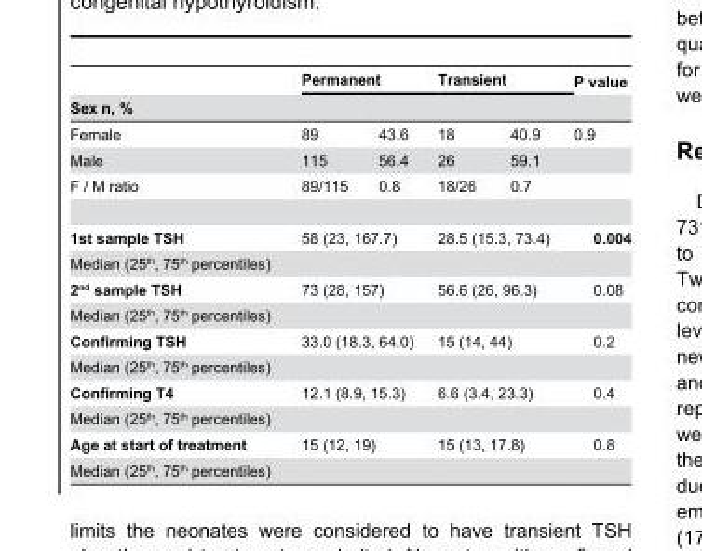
<table><thead><tr><td rowspan="2">Sex n, %</td><td colspan="2">Permanent</td><td colspan="2">Transient</td><td rowspan="2">P value</td></tr><tr><td></td><td></td><td></td><td></td></tr></thead><tbody><tr><td>Female</td><td>89</td><td>43.6</td><td>18</td><td>40.9</td><td>0.9</td></tr><tr><td>Male</td><td>115</td><td>56.4</td><td>26</td><td>59.1</td><td></td></tr><tr><td>F / M ratio</td><td>89/115</td><td>0.8</td><td>18/26</td><td>0.7</td><td></td></tr><tr><td>1st sample TSH</td><td colspan="2">58 (23, 167.7)</td><td colspan="2">28.5 (15.3, 73.4)</td><td>0.004</td></tr><tr><td colspan="6">Median (25<sup>th</sup>, 75<sup>th</sup> percentiles)</td></tr><tr><td>2<sup>nd</sup> sample TSH</td><td colspan="2">73 (28, 157)</td><td colspan="2">56.6 (26, 96.3)</td><td>0.08</td></tr><tr><td colspan="6">Median (25<sup>th</sup>, 75<sup>th</sup> percentiles)</td></tr><tr><td>Confirming TSH</td><td colspan="2">33.0 (18.3, 64.0)</td><td colspan="2">15 (14, 44)</td><td>0.2</td></tr><tr><td colspan="6">Median (25<sup>th</sup>, 75<sup>th</sup> percentiles)</td></tr><tr><td>Confirming T4</td><td colspan="2">12.1 (8.9, 15.3)</td><td colspan="2">6.6 (3.4, 23.3)</td><td>0.4</td></tr><tr><td colspan="6">Median (25<sup>th</sup>, 75<sup>th</sup> percentiles)</td></tr><tr><td>Age at start of treatment</td><td colspan="2">15 (12, 19)</td><td colspan="2">15 (13, 17.8)</td><td>0.8</td></tr><tr><td>Median (25<sup>th</sup>, 75<sup>th</sup> percentiles)</td><td colspan="2"></td><td colspan="2"></td><td></td></tr></tbody></table>